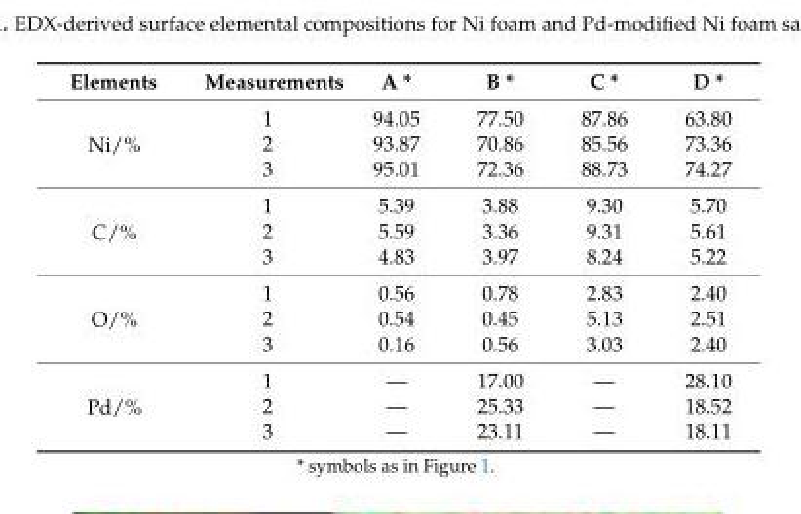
<table><thead><tr><td>Elements</td><td>Measurements</td><td>A *</td><td>B *</td><td>C *</td><td>D *</td></tr></thead><tbody><tr><td rowspan="3">Ni/%</td><td>1</td><td>94.05</td><td>77.50</td><td>87.86</td><td>63.80</td></tr><tr><td>2</td><td>93.87</td><td>70.86</td><td>85.56</td><td>73.36</td></tr><tr><td>3</td><td>95.01</td><td>72.36</td><td>88.73</td><td>74.27</td></tr><tr><td rowspan="3">C/%</td><td>1</td><td>5.39</td><td>3.88</td><td>9.30</td><td>5.70</td></tr><tr><td>2</td><td>5.59</td><td>3.36</td><td>9.31</td><td>5.61</td></tr><tr><td>3</td><td>4.83</td><td>3.97</td><td>8.24</td><td>5.22</td></tr><tr><td rowspan="3">O/%</td><td>1</td><td>0.56</td><td>0.78</td><td>2.83</td><td>2.40</td></tr><tr><td>2</td><td>0.54</td><td>0.45</td><td>5.13</td><td>2.51</td></tr><tr><td>3</td><td>0.16</td><td>0.56</td><td>3.03</td><td>2.40</td></tr><tr><td rowspan="3">Pd/%</td><td>1</td><td>—</td><td>17.00</td><td>—</td><td>28.10</td></tr><tr><td>2</td><td>—</td><td>25.33</td><td>—</td><td>18.52</td></tr><tr><td>3</td><td>—</td><td>23.11</td><td>—</td><td>18.11</td></tr></tbody></table>